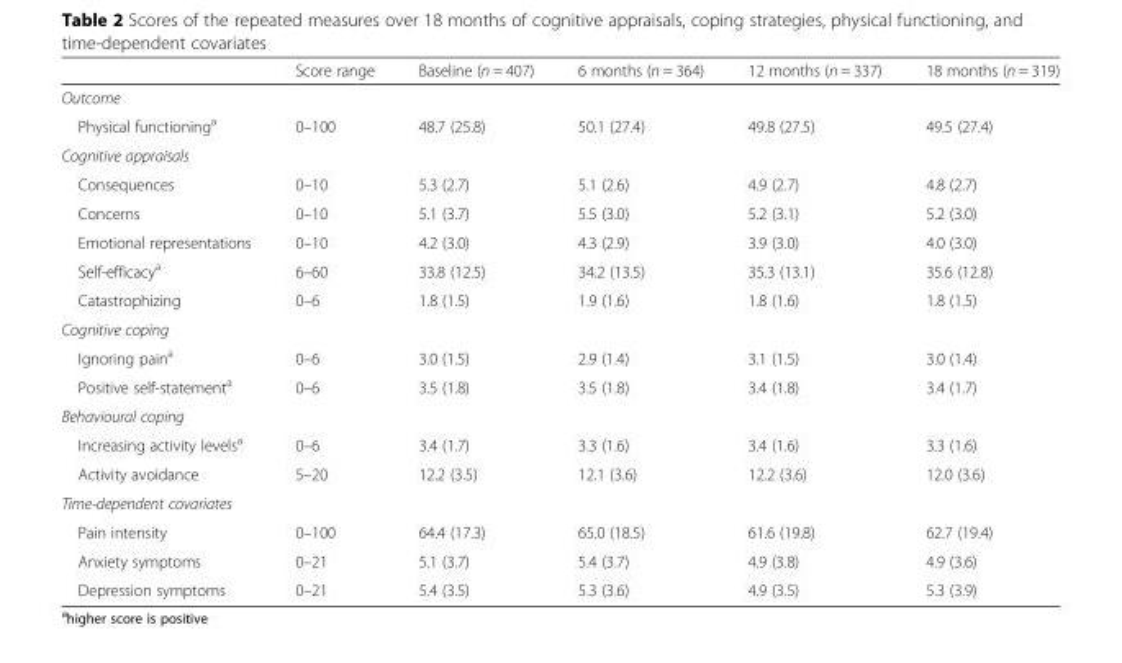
<table><thead><tr><td></td><td>Score range</td><td>Baseline (n = 407)</td><td>6 months (n = 364)</td><td>12 months (n = 337)</td><td>18 months (n = 319)</td></tr></thead><tbody><tr><td colspan="6">Outcome</td></tr><tr><td>Physical functioning<sup>a</sup></td><td>0–100</td><td>48.7 (25.8)</td><td>50.1 (27.4)</td><td>49.8 (27.5)</td><td>49.5 (27.4)</td></tr><tr><td colspan="6">Cognitive appraisals</td></tr><tr><td>Consequences</td><td>0–10</td><td>5.3 (2.7)</td><td>5.1 (2.6)</td><td>4.9 (2.7)</td><td>4.8 (2.7)</td></tr><tr><td>Concerns</td><td>0–10</td><td>5.1 (3.7)</td><td>5.5 (3.0)</td><td>5.2 (3.1)</td><td>5.2 (3.0)</td></tr><tr><td>Emotional representations</td><td>0–10</td><td>4.2 (3.0)</td><td>4.3 (2.9)</td><td>3.9 (3.0)</td><td>4.0 (3.0)</td></tr><tr><td>Self-efficacy<sup>a</sup></td><td>6–60</td><td>33.8 (12.5)</td><td>34.2 (13.5)</td><td>35.3 (13.1)</td><td>35.6 (12.8)</td></tr><tr><td>Catastrophizing</td><td>0–6</td><td>1.8 (1.5)</td><td>1.9 (1.6)</td><td>1.8 (1.6)</td><td>1.8 (1.5)</td></tr><tr><td colspan="6">Cognitive coping</td></tr><tr><td>Ignoring pain<sup>a</sup></td><td>0–6</td><td>3.0 (1.5)</td><td>2.9 (1.4)</td><td>3.1 (1.5)</td><td>3.0 (1.4)</td></tr><tr><td>Positive self-statement<sup>a</sup></td><td>0–6</td><td>3.5 (1.8)</td><td>3.5 (1.8)</td><td>3.4 (1.8)</td><td>3.4 (1.7)</td></tr><tr><td colspan="6">Behavioural coping</td></tr><tr><td>Increasing activity levels<sup>a</sup></td><td>0–6</td><td>3.4 (1.7)</td><td>3.3 (1.6)</td><td>3.4 (1.6)</td><td>3.3 (1.6)</td></tr><tr><td>Activity avoidance</td><td>5–20</td><td>12.2 (3.5)</td><td>12.1 (3.6)</td><td>12.2 (3.6)</td><td>12.0 (3.6)</td></tr><tr><td colspan="6">Time-dependent covariates</td></tr><tr><td>Pain intensity</td><td>0–100</td><td>64.4 (17.3)</td><td>65.0 (18.5)</td><td>61.6 (19.8)</td><td>62.7 (19.4)</td></tr><tr><td>Anxiety symptoms</td><td>0–21</td><td>5.1 (3.7)</td><td>5.4 (3.7)</td><td>4.9 (3.8)</td><td>4.9 (3.6)</td></tr><tr><td>Depression symptoms</td><td>0–21</td><td>5.4 (3.5)</td><td>5.3 (3.6)</td><td>4.9 (3.5)</td><td>5.3 (3.9)</td></tr></tbody></table>